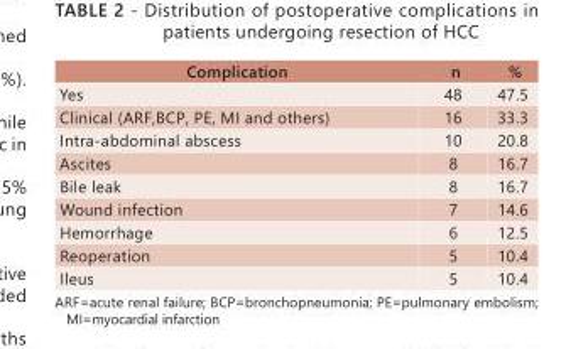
<table><tbody><tr><td>Complication</td><td>n</td><td>%</td></tr><tr><td>Yes</td><td>48</td><td>47.5</td></tr><tr><td>Clinical (ARF,BCP, PE, MI and others)</td><td>16</td><td>33.3</td></tr><tr><td>Intra-abdominal abscess</td><td>10</td><td>20.8</td></tr><tr><td>Ascites</td><td>8</td><td>16.7</td></tr><tr><td>Bile leak</td><td>8</td><td>16.7</td></tr><tr><td>Wound infection</td><td>7</td><td>14.6</td></tr><tr><td>Hemorrhage</td><td>6</td><td>12.5</td></tr><tr><td>Reoperation</td><td>5</td><td>10.4</td></tr><tr><td>Ileus</td><td>5</td><td>10.4</td></tr></tbody></table>